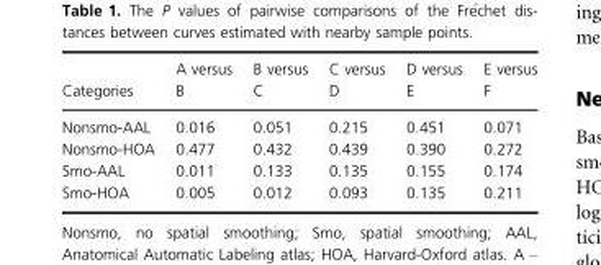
<table><thead><tr><td>Categories</td><td>A versus B</td><td>B versus C</td><td>C versus D</td><td>D versus E</td><td>E versus F</td></tr></thead><tbody><tr><td>Nonsmo-AAL</td><td>0.016</td><td>0.051</td><td>0.215</td><td>0.451</td><td>0.071</td></tr><tr><td>Nonsmo-HOA</td><td>0.477</td><td>0.432</td><td>0.439</td><td>0.390</td><td>0.272</td></tr><tr><td>Smo-AAL</td><td>0.011</td><td>0.133</td><td>0.135</td><td>0.155</td><td>0.174</td></tr><tr><td>Smo-HOA</td><td>0.005</td><td>0.012</td><td>0.093</td><td>0.135</td><td>0.211</td></tr></tbody></table>